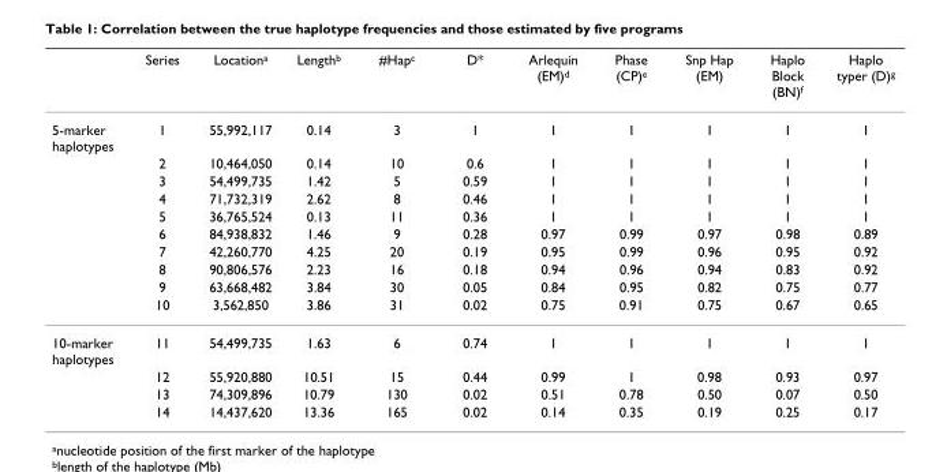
<table><thead><tr><td></td><td>Series</td><td>Locationa</td><td>Lengthb</td><td>#Hapc</td><td>D*</td><td>Arlequin (EM)d</td><td>Phase (CP)e</td><td>Snp Hap (EM)</td><td>Haplo Block (BN)f</td><td>Haplo typer (D)g</td></tr></thead><tbody><tr><td rowspan="10">5-marker haplotypes</td><td>1</td><td>55,992,117</td><td>0.14</td><td>3</td><td>1</td><td>1</td><td>1</td><td>1</td><td>1</td><td>1</td></tr><tr><td>2</td><td>10,464,050</td><td>0.14</td><td>10</td><td>0.6</td><td>1</td><td>1</td><td>1</td><td>1</td><td>1</td></tr><tr><td>3</td><td>54,499,735</td><td>1.42</td><td>5</td><td>0.59</td><td>1</td><td>1</td><td>1</td><td>1</td><td>1</td></tr><tr><td>4</td><td>71,732,319</td><td>2.62</td><td>8</td><td>0.46</td><td>1</td><td>1</td><td>1</td><td>1</td><td>1</td></tr><tr><td>5</td><td>36,765,524</td><td>0.13</td><td>11</td><td>0.36</td><td>1</td><td>1</td><td>1</td><td>1</td><td>1</td></tr><tr><td>6</td><td>84,938,832</td><td>1.46</td><td>9</td><td>0.28</td><td>0.97</td><td>0.99</td><td>0.97</td><td>0.98</td><td>0.89</td></tr><tr><td>7</td><td>42,260,770</td><td>4.25</td><td>20</td><td>0.19</td><td>0.95</td><td>0.99</td><td>0.96</td><td>0.95</td><td>0.92</td></tr><tr><td>8</td><td>90,806,576</td><td>2.23</td><td>16</td><td>0.18</td><td>0.94</td><td>0.96</td><td>0.94</td><td>0.83</td><td>0.92</td></tr><tr><td>9</td><td>63,668,482</td><td>3.84</td><td>30</td><td>0.05</td><td>0.84</td><td>0.95</td><td>0.82</td><td>0.75</td><td>0.77</td></tr><tr><td>10</td><td>3,562,850</td><td>3.86</td><td>31</td><td>0.02</td><td>0.75</td><td>0.91</td><td>0.75</td><td>0.67</td><td>0.65</td></tr><tr><td rowspan="4">10-marker haplotypes</td><td>11</td><td>54,499,735</td><td>1.63</td><td>6</td><td>0.74</td><td>1</td><td>1</td><td>1</td><td>1</td><td>1</td></tr><tr><td>12</td><td>55,920,880</td><td>10.51</td><td>15</td><td>0.44</td><td>0.99</td><td>1</td><td>0.98</td><td>0.93</td><td>0.97</td></tr><tr><td>13</td><td>74,309,896</td><td>10.79</td><td>130</td><td>0.02</td><td>0.51</td><td>0.78</td><td>0.50</td><td>0.07</td><td>0.50</td></tr><tr><td>14</td><td>14,437,620</td><td>13.36</td><td>165</td><td>0.02</td><td>0.14</td><td>0.35</td><td>0.19</td><td>0.25</td><td>0.17</td></tr></tbody></table>